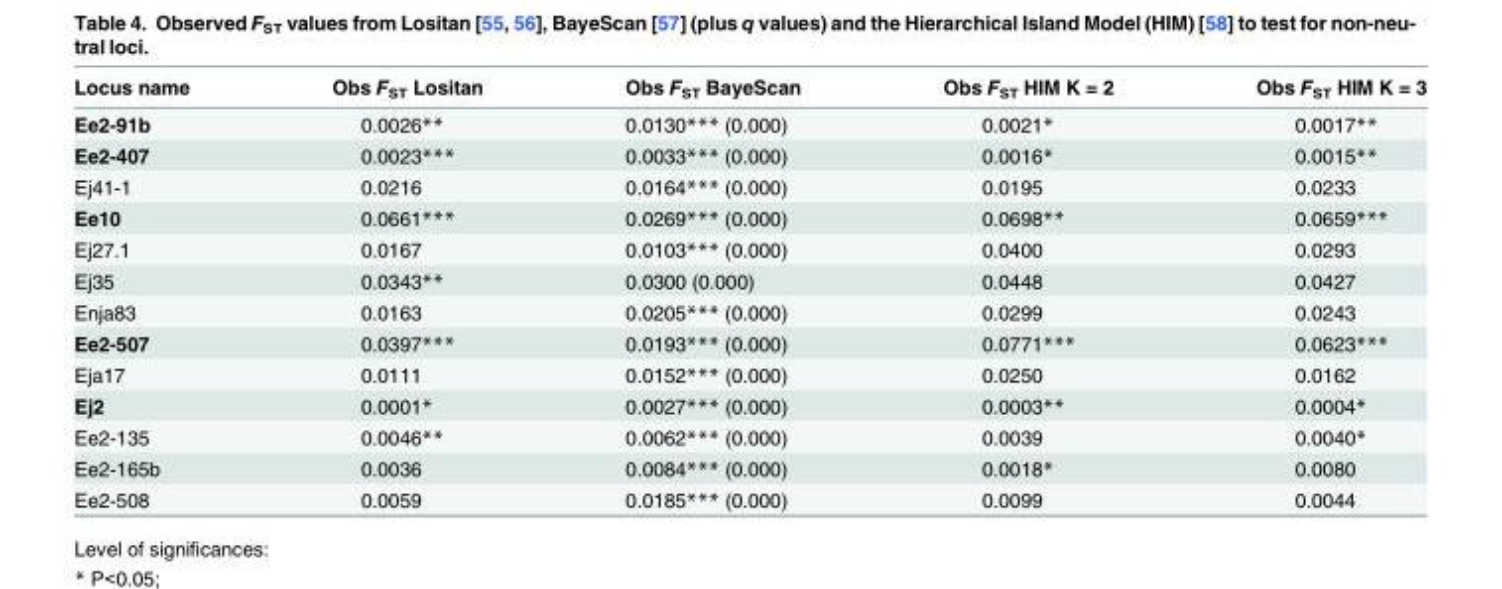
<table><thead><tr><td>Locus name</td><td>Obs F<sub>ST</sub> Lositan</td><td>Obs F<sub>ST</sub> BayeScan</td><td>Obs F<sub>ST</sub> HIM K = 2</td><td>Obs F<sub>ST</sub> HIM K = 3</td></tr></thead><tbody><tr><td>Ee2-91b</td><td>0.0026**</td><td>0.0130*** (0.000)</td><td>0.0021*</td><td>0.0017**</td></tr><tr><td>Ee2-407</td><td>0.0023***</td><td>0.0033*** (0.000)</td><td>0.0016*</td><td>0.0015**</td></tr><tr><td>Ej41-1</td><td>0.0216</td><td>0.0164*** (0.000)</td><td>0.0195</td><td>0.0233</td></tr><tr><td>Ee10</td><td>0.0661***</td><td>0.0269*** (0.000)</td><td>0.0698**</td><td>0.0659***</td></tr><tr><td>Ej27.1</td><td>0.0167</td><td>0.0103*** (0.000)</td><td>0.0400</td><td>0.0293</td></tr><tr><td>Ej35</td><td>0.0343**</td><td>0.0300 (0.000)</td><td>0.0448</td><td>0.0427</td></tr><tr><td>Enja83</td><td>0.0163</td><td>0.0205*** (0.000)</td><td>0.0299</td><td>0.0243</td></tr><tr><td>Ee2-507</td><td>0.0397***</td><td>0.0193*** (0.000)</td><td>0.0771***</td><td>0.0623***</td></tr><tr><td>Eja17</td><td>0.0111</td><td>0.0152*** (0.000)</td><td>0.0250</td><td>0.0162</td></tr><tr><td>Ej2</td><td>0.0001*</td><td>0.0027*** (0.000)</td><td>0.0003**</td><td>0.0004*</td></tr><tr><td>Ee2-135</td><td>0.0046**</td><td>0.0062*** (0.000)</td><td>0.0039</td><td>0.0040*</td></tr><tr><td>Ee2-165b</td><td>0.0036</td><td>0.0084*** (0.000)</td><td>0.0018*</td><td>0.0080</td></tr><tr><td>Ee2-508</td><td>0.0059</td><td>0.0185*** (0.000)</td><td>0.0099</td><td>0.0044</td></tr></tbody></table>